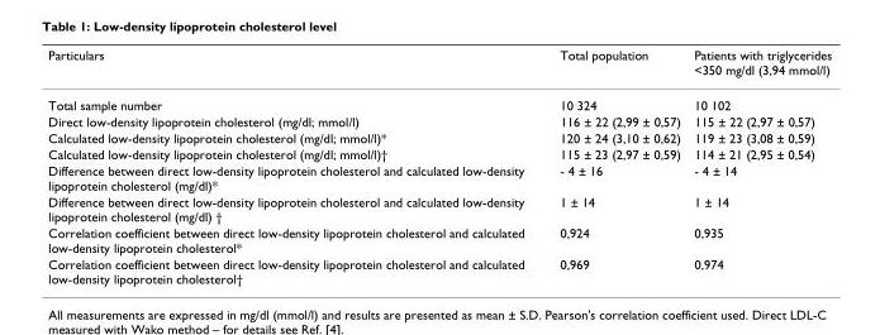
<table><thead><tr><td>Particulars</td><td>Total population</td><td>Patients with triglycerides &lt;350 mg/dl (3,94 mmol/l)</td></tr></thead><tbody><tr><td>Total sample number</td><td>10 324</td><td>10 102</td></tr><tr><td>Direct low-density lipoprotein cholesterol (mg/dl; mmol/l)</td><td>116 ± 22 (2,99 ± 0,57)</td><td>115 ± 22 (2,97 ± 0,57)</td></tr><tr><td>Calculated low-density lipoprotein cholesterol (mg/dl; mmol/l)*</td><td>120 ± 24 (3,10 ± 0,62)</td><td>119 ± 23 (3,08 ± 0,59)</td></tr><tr><td>Calculated low-density lipoprotein cholesterol (mg/dl; mmol/l)†</td><td>115 ± 23 (2,97 ± 0,59)</td><td>114 ± 21 (2,95 ± 0,54)</td></tr><tr><td>Difference between direct low-density lipoprotein cholesterol and calculated low-density lipoprotein cholesterol (mg/dl)*</td><td>- 4 ± 16</td><td>- 4 ± 14</td></tr><tr><td>Difference between direct low-density lipoprotein cholesterol and calculated low-density lipoprotein cholesterol (mg/dl) †</td><td>1 ± 14</td><td>1 ± 14</td></tr><tr><td>Correlation coefficient between direct low-density lipoprotein cholesterol and calculated low-density lipoprotein cholesterol*</td><td>0,924</td><td>0,935</td></tr><tr><td>Correlation coefficient between direct low-density lipoprotein cholesterol and calculated low-density lipoprotein cholesterol†</td><td>0,969</td><td>0,974</td></tr></tbody></table>